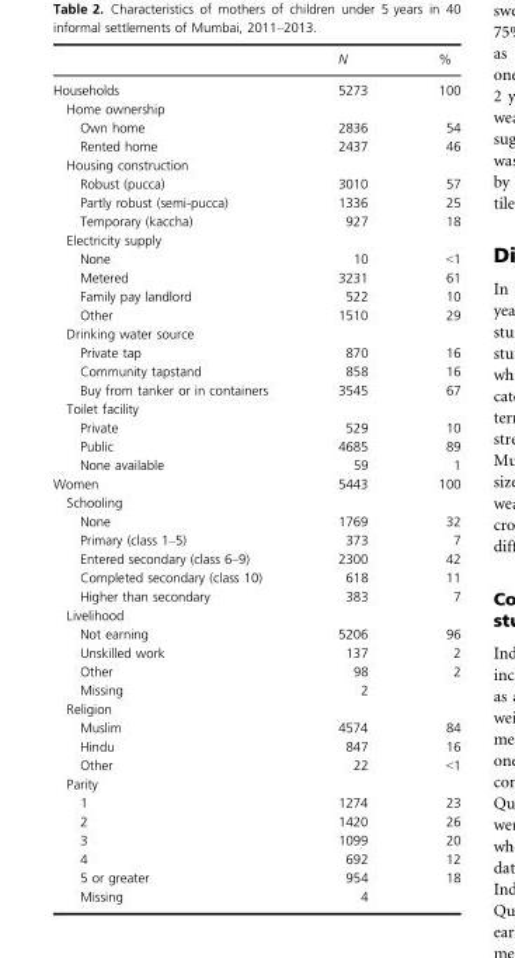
<table><thead><tr><td></td><td>N</td><td>%</td></tr></thead><tbody><tr><td>Households</td><td>5273</td><td>100</td></tr><tr><td colspan="3">Home ownership</td></tr><tr><td>Own home</td><td>2836</td><td>54</td></tr><tr><td>Rented home</td><td>2437</td><td>46</td></tr><tr><td colspan="3">Housing construction</td></tr><tr><td>Robust (pucca)</td><td>3010</td><td>57</td></tr><tr><td>Partly robust (semi-pucca)</td><td>1336</td><td>25</td></tr><tr><td>Temporary (kaccha)</td><td>927</td><td>18</td></tr><tr><td colspan="3">Electricity supply</td></tr><tr><td>None</td><td>10</td><td>&lt;1</td></tr><tr><td>Metered</td><td>3231</td><td>61</td></tr><tr><td>Family pay landlord</td><td>522</td><td>10</td></tr><tr><td>Other</td><td>1510</td><td>29</td></tr><tr><td colspan="3">Drinking water source</td></tr><tr><td>Private tap</td><td>870</td><td>16</td></tr><tr><td>Community tapstand</td><td>858</td><td>16</td></tr><tr><td>Buy from tanker or in containers</td><td>3545</td><td>67</td></tr><tr><td colspan="3">Toilet facility</td></tr><tr><td>Private</td><td>529</td><td>10</td></tr><tr><td>Public</td><td>4685</td><td>89</td></tr><tr><td>None available</td><td>59</td><td>1</td></tr><tr><td>Women</td><td>5443</td><td>100</td></tr><tr><td colspan="3">Schooling</td></tr><tr><td>None</td><td>1769</td><td>32</td></tr><tr><td>Primary (class 1–5)</td><td>373</td><td>7</td></tr><tr><td>Entered secondary (class 6–9)</td><td>2300</td><td>42</td></tr><tr><td>Completed secondary (class 10)</td><td>618</td><td>11</td></tr><tr><td>Higher than secondary</td><td>383</td><td>7</td></tr><tr><td colspan="3">Livelihood</td></tr><tr><td>Not earning</td><td>5206</td><td>96</td></tr><tr><td>Unskilled work</td><td>137</td><td>2</td></tr><tr><td>Other</td><td>98</td><td>2</td></tr><tr><td>Missing</td><td>2</td><td></td></tr><tr><td colspan="3">Religion</td></tr><tr><td>Muslim</td><td>4574</td><td>84</td></tr><tr><td>Hindu</td><td>847</td><td>16</td></tr><tr><td>Other</td><td>22</td><td>&lt;1</td></tr><tr><td colspan="3">Parity</td></tr><tr><td>1</td><td>1274</td><td>23</td></tr><tr><td>2</td><td>1420</td><td>26</td></tr><tr><td>3</td><td>1099</td><td>20</td></tr><tr><td>4</td><td>692</td><td>12</td></tr><tr><td>5 or greater</td><td>954</td><td>18</td></tr><tr><td>Missing</td><td>4</td><td></td></tr></tbody></table>